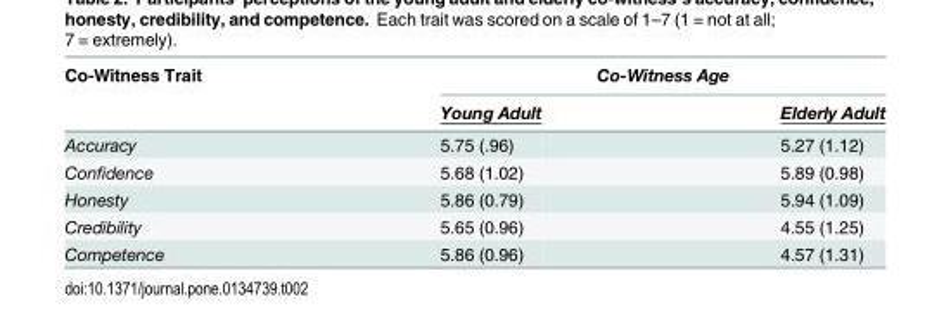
<table><thead><tr><td rowspan="2">Co-Witness Trait</td><td colspan="2">Co-Witness Age</td></tr><tr><td>Young Adult</td><td>Elderly Adult</td></tr></thead><tbody><tr><td>Accuracy</td><td>5.75 (.96)</td><td>5.27 (1.12)</td></tr><tr><td>Confidence</td><td>5.68 (1.02)</td><td>5.89 (0.98)</td></tr><tr><td>Honesty</td><td>5.86 (0.79)</td><td>5.94 (1.09)</td></tr><tr><td>Credibility</td><td>5.65 (0.96)</td><td>4.55 (1.25)</td></tr><tr><td>Competence</td><td>5.86 (0.96)</td><td>4.57 (1.31)</td></tr></tbody></table>